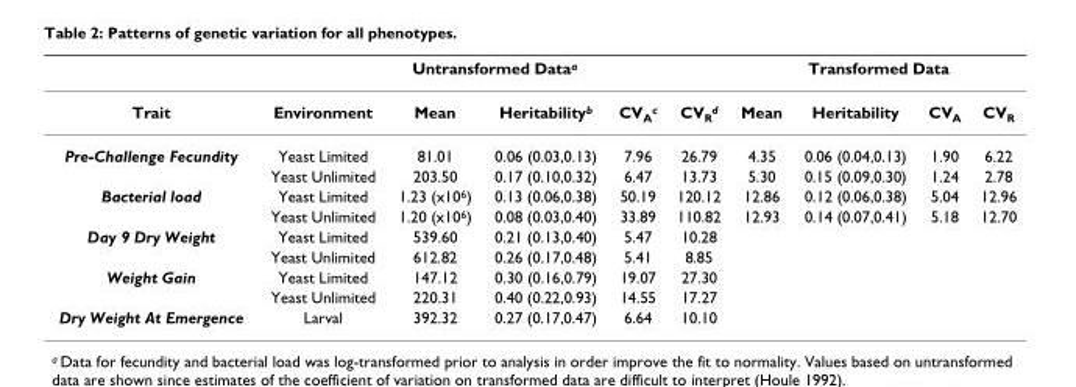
<table><thead><tr><td rowspan="2">Trait</td><td colspan="5">Untransformed Data<sup>a</sup></td><td colspan="4">Transformed Data</td></tr><tr><td>Environment</td><td>Mean</td><td>Heritability<sup>b</sup></td><td>CV<sub>A</sub><sup>c</sup></td><td>CV<sub>R</sub><sup>d</sup></td><td>Mean</td><td>Heritability</td><td>CV<sub>A</sub></td><td>CV<sub>R</sub></td></tr></thead><tbody><tr><td rowspan="2">Pre-Challenge Fecundity</td><td>Yeast Limited</td><td>81.01</td><td>0.06 (0.03,0.13)</td><td>7.96</td><td>26.79</td><td>4.35</td><td>0.06 (0.04,0.13)</td><td>1.90</td><td>6.22</td></tr><tr><td>Yeast Unlimited</td><td>203.50</td><td>0.17 (0.10,0.32)</td><td>6.47</td><td>13.73</td><td>5.30</td><td>0.15 (0.09,0.30)</td><td>1.24</td><td>2.78</td></tr><tr><td rowspan="2">Bacterial load</td><td>Yeast Limited</td><td>1.23 (x10<sup>6</sup>)</td><td>0.13 (0.06,0.38)</td><td>50.19</td><td>120.12</td><td>12.86</td><td>0.12 (0.06,0.38)</td><td>5.04</td><td>12.96</td></tr><tr><td>Yeast Unlimited</td><td>1.20 (x10<sup>6</sup>)</td><td>0.08 (0.03,0.40)</td><td>33.89</td><td>110.82</td><td>12.93</td><td>0.14 (0.07,0.41)</td><td>5.18</td><td>12.70</td></tr><tr><td rowspan="2">Day 9 Dry Weight</td><td>Yeast Limited</td><td>539.60</td><td>0.21 (0.13,0.40)</td><td>5.47</td><td>10.28</td><td></td><td></td><td></td><td></td></tr><tr><td>Yeast Unlimited</td><td>612.82</td><td>0.26 (0.17,0.48)</td><td>5.41</td><td>8.85</td><td></td><td></td><td></td><td></td></tr><tr><td rowspan="2">Weight Gain</td><td>Yeast Limited</td><td>147.12</td><td>0.30 (0.16,0.79)</td><td>19.07</td><td>27.30</td><td></td><td></td><td></td><td></td></tr><tr><td>Yeast Unlimited</td><td>220.31</td><td>0.40 (0.22,0.93)</td><td>14.55</td><td>17.27</td><td></td><td></td><td></td><td></td></tr><tr><td>Dry Weight At Emergence</td><td>Larval</td><td>392.32</td><td>0.27 (0.17,0.47)</td><td>6.64</td><td>10.10</td><td></td><td></td><td></td><td></td></tr></tbody></table>